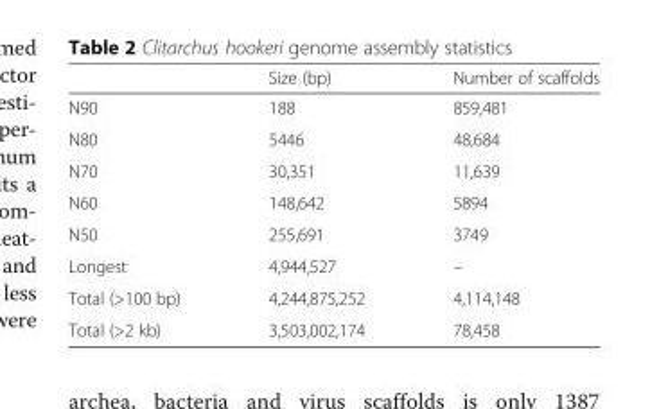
<table><thead><tr><td></td><td>Size (bp)</td><td>Number of scaffolds</td></tr></thead><tbody><tr><td>N90</td><td>188</td><td>859,481</td></tr><tr><td>N80</td><td>5446</td><td>48,684</td></tr><tr><td>N70</td><td>30,351</td><td>11,639</td></tr><tr><td>N60</td><td>148,642</td><td>5894</td></tr><tr><td>N50</td><td>255,691</td><td>3749</td></tr><tr><td>Longest</td><td>4,944,527</td><td>–</td></tr><tr><td>Total (&gt;100 bp)</td><td>4,244,875,252</td><td>4,114,148</td></tr><tr><td>Total (&gt;2 kb)</td><td>3,503,002,174</td><td>78,458</td></tr></tbody></table>